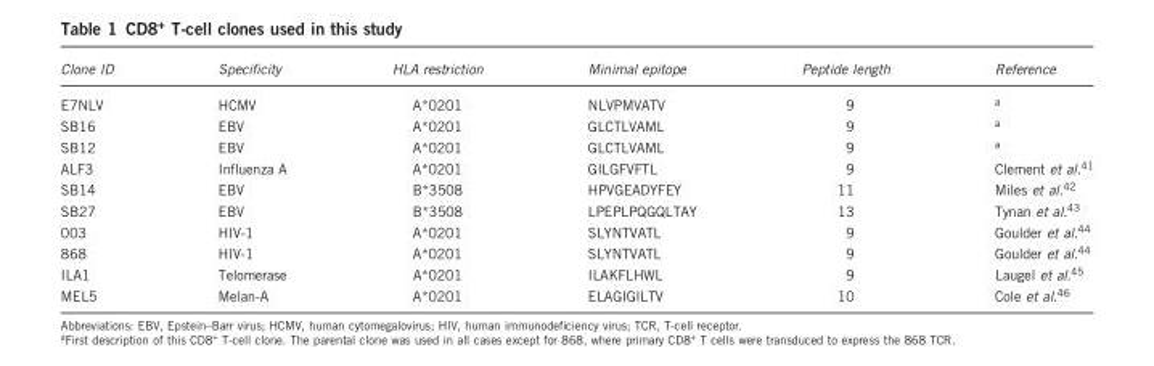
<table><thead><tr><td>Clone ID</td><td>Specificity</td><td>HLA restriction</td><td>Minimal epitope</td><td>Peptide length</td><td>Reference</td></tr></thead><tbody><tr><td>E7NLV</td><td>HCMV</td><td>A*0201</td><td>NLVPMVATV</td><td>9</td><td>a</td></tr><tr><td>SB16</td><td>EBV</td><td>A*0201</td><td>GLCTLVAML</td><td>9</td><td>a</td></tr><tr><td>SB12</td><td>EBV</td><td>A*0201</td><td>GLCTLVAML</td><td>9</td><td>a</td></tr><tr><td>ALF3</td><td>Influenza A</td><td>A*0201</td><td>GILGFVFTL</td><td>9</td><td>Clement et al.<sup>41</sup></td></tr><tr><td>SB14</td><td>EBV</td><td>B*3508</td><td>HPVGEADYFEY</td><td>11</td><td>Miles et al.<sup>42</sup></td></tr><tr><td>SB27</td><td>EBV</td><td>B*3508</td><td>LPEPLPQGQLTAY</td><td>13</td><td>Tynan et al.<sup>43</sup></td></tr><tr><td>003</td><td>HIV-1</td><td>A*0201</td><td>SLYNTVATL</td><td>9</td><td>Goulder et al.<sup>44</sup></td></tr><tr><td>868</td><td>HIV-1</td><td>A*0201</td><td>SLYNTVATL</td><td>9</td><td>Goulder et al.<sup>44</sup></td></tr><tr><td>ILA1</td><td>Telomerase</td><td>A*0201</td><td>ILAKFLHWL</td><td>9</td><td>Laugel et al.<sup>45</sup></td></tr><tr><td>MEL5</td><td>Melan-A</td><td>A*0201</td><td>ELAGIGILTV</td><td>10</td><td>Cole et al.<sup>46</sup></td></tr></tbody></table>